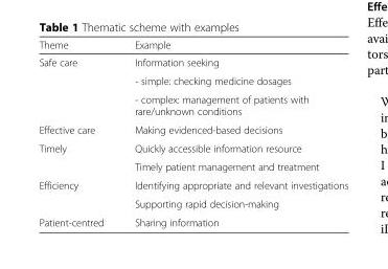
<table><thead><tr><td>Theme</td><td>Example</td></tr></thead><tbody><tr><td rowspan="3">Safe care</td><td>Information seeking</td></tr><tr><td>- simple: checking medicine dosages</td></tr><tr><td>- complex: management of patients with rare/unknown conditions</td></tr><tr><td>Effective care</td><td>Making evidenced-based decisions</td></tr><tr><td rowspan="2">Timely</td><td>Quickly accessible information resource</td></tr><tr><td>Timely patient management and treatment</td></tr><tr><td rowspan="2">Efficiency</td><td>Identifying appropriate and relevant investigations</td></tr><tr><td>Supporting rapid decision-making</td></tr><tr><td>Patient-centred</td><td>Sharing information</td></tr></tbody></table>